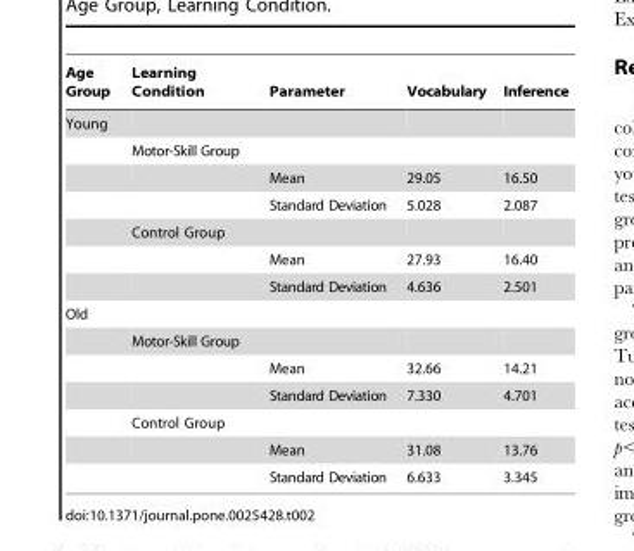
<table><thead><tr><td>Age Group</td><td>Learning Condition</td><td>Parameter</td><td>Vocabulary</td><td>Inference</td></tr></thead><tbody><tr><td colspan="5">Young</td></tr><tr><td></td><td>Motor-Skill Group</td><td></td><td></td><td></td></tr><tr><td></td><td></td><td>Mean</td><td>29.05</td><td>16.50</td></tr><tr><td></td><td></td><td>Standard Deviation</td><td>5.028</td><td>2.087</td></tr><tr><td></td><td>Control Group</td><td></td><td></td><td></td></tr><tr><td></td><td></td><td>Mean</td><td>27.93</td><td>16.40</td></tr><tr><td></td><td></td><td>Standard Deviation</td><td>4.636</td><td>2.501</td></tr><tr><td colspan="5">Old</td></tr><tr><td></td><td>Motor-Skill Group</td><td></td><td></td><td></td></tr><tr><td></td><td></td><td>Mean</td><td>32.66</td><td>14.21</td></tr><tr><td></td><td></td><td>Standard Deviation</td><td>7.330</td><td>4.701</td></tr><tr><td></td><td>Control Group</td><td></td><td></td><td></td></tr><tr><td></td><td></td><td>Mean</td><td>31.08</td><td>13.76</td></tr><tr><td></td><td></td><td>Standard Deviation</td><td>6.633</td><td>3.345</td></tr></tbody></table>